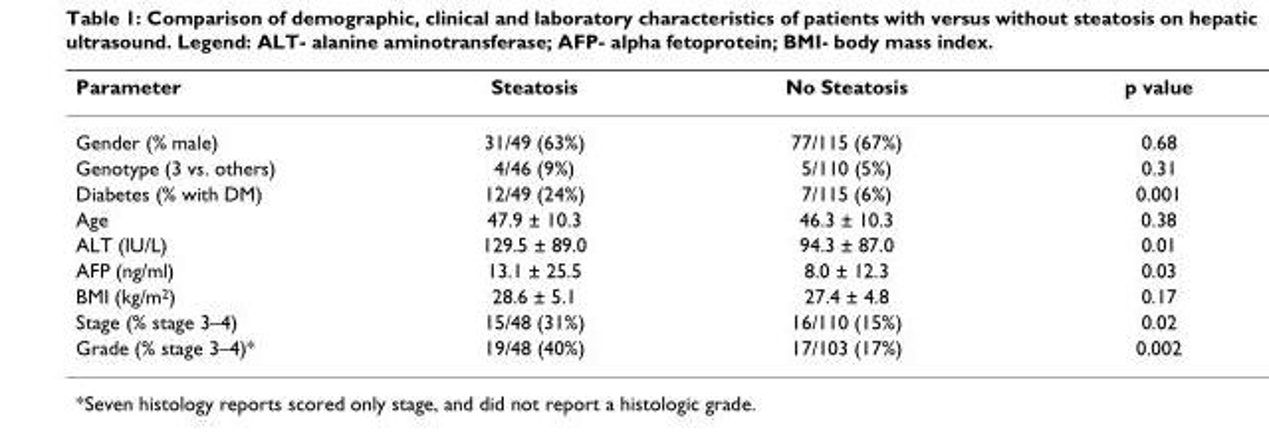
<table><thead><tr><td>Parameter</td><td>Steatosis</td><td>No Steatosis</td><td>p value</td></tr></thead><tbody><tr><td>Gender (% male)</td><td>31/49 (63%)</td><td>77/115 (67%)</td><td>0.68</td></tr><tr><td>Genotype (3 vs. others)</td><td>4/46 (9%)</td><td>5/110 (5%)</td><td>0.31</td></tr><tr><td>Diabetes (% with DM)</td><td>12/49 (24%)</td><td>7/115 (6%)</td><td>0.001</td></tr><tr><td>Age</td><td>47.9 ± 10.3</td><td>46.3 ± 10.3</td><td>0.38</td></tr><tr><td>ALT (IU/L)</td><td>129.5 ± 89.0</td><td>94.3 ± 87.0</td><td>0.01</td></tr><tr><td>AFP (ng/ml)</td><td>13.1 ± 25.5</td><td>8.0 ± 12.3</td><td>0.03</td></tr><tr><td>BMI (kg/m2)</td><td>28.6 ± 5.1</td><td>27.4 ± 4.8</td><td>0.17</td></tr><tr><td>Stage (% stage 3–4)</td><td>15/48 (31%)</td><td>16/110 (15%)</td><td>0.02</td></tr><tr><td>Grade (% stage 3–4)*</td><td>19/48 (40%)</td><td>17/103 (17%)</td><td>0.002</td></tr></tbody></table>